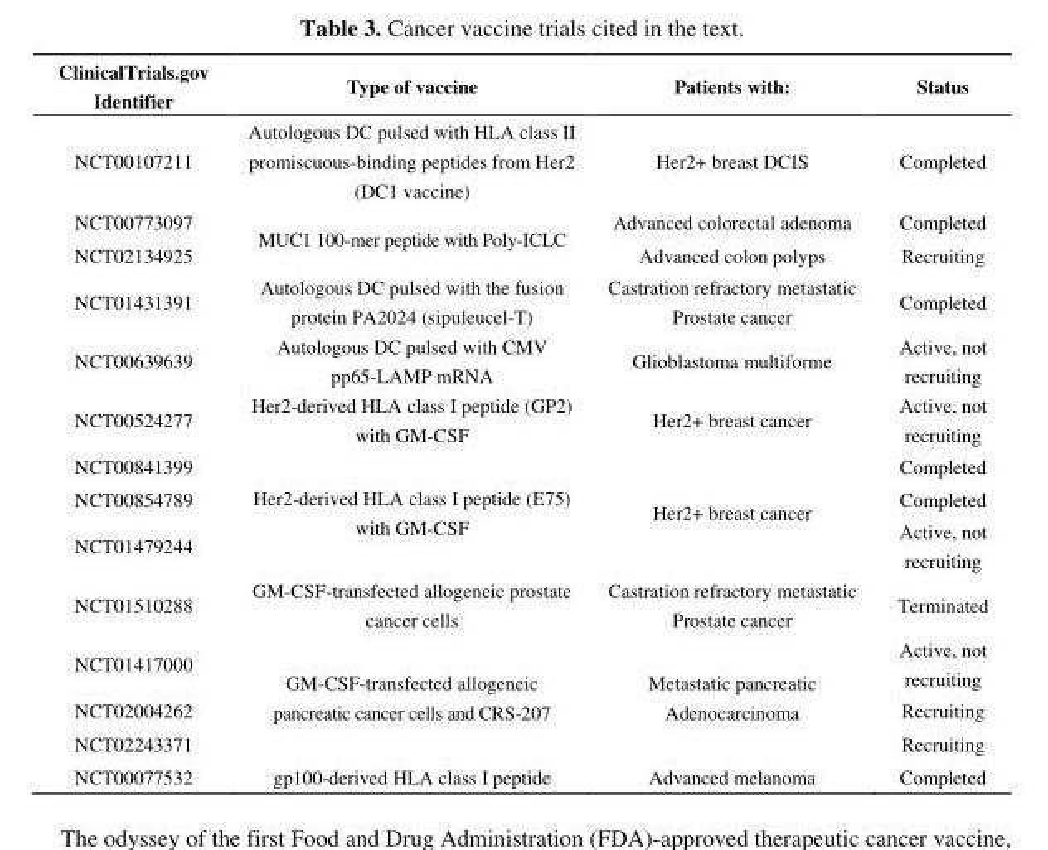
<table><thead><tr><td>ClinicalTrials.gov Identifier</td><td>Type of vaccine</td><td>Patients with:</td><td>Status</td></tr></thead><tbody><tr><td>NCT00107211</td><td>Autologous DC pulsed with HLA class II promiscuous-binding peptides from Her2 (DC1 vaccine)</td><td>Her2+ breast DCIS</td><td>Completed</td></tr><tr><td>NCT00773097</td><td rowspan="2">MUC1 100-mer peptide with Poly-ICLC</td><td>Advanced colorectal adenoma</td><td>Completed</td></tr><tr><td>NCT02134925</td><td>Advanced colon polyps</td><td>Recruiting</td></tr><tr><td>NCT01431391</td><td>Autologous DC pulsed with the fusion protein PA2024 (sipuleucel-T)</td><td>Castration refractory metastatic Prostate cancer</td><td>Completed</td></tr><tr><td>NCT00639639</td><td>Autologous DC pulsed with CMV pp65-LAMP mRNA</td><td>Glioblastoma multiforme</td><td>Active, not recruiting</td></tr><tr><td>NCT00524277</td><td>Her2-derived HLA class I peptide (GP2) with GM-CSF</td><td>Her2+ breast cancer</td><td>Active, not recruiting</td></tr><tr><td>NCT00841399</td><td rowspan="3">Her2-derived HLA class I peptide (E75) with GM-CSF</td><td rowspan="3">Her2+ breast cancer</td><td>Completed</td></tr><tr><td>NCT00854789</td><td>Completed</td></tr><tr><td>NCT01479244</td><td>Active, not recruiting</td></tr><tr><td>NCT01510288</td><td>GM-CSF-transfected allogeneic prostate cancer cells</td><td>Castration refractory metastatic Prostate cancer</td><td>Terminated</td></tr><tr><td>NCT01417000</td><td rowspan="3">GM-CSF-transfected allogeneic pancreatic cancer cells and CRS-207</td><td rowspan="3">Metastatic pancreatic Adenocarcinoma</td><td>Active, not recruiting</td></tr><tr><td>NCT02004262</td><td>Recruiting</td></tr><tr><td>NCT02243371</td><td>Recruiting</td></tr><tr><td>NCT00077532</td><td>gp100-derived HLA class I peptide</td><td>Advanced melanoma</td><td>Completed</td></tr></tbody></table>